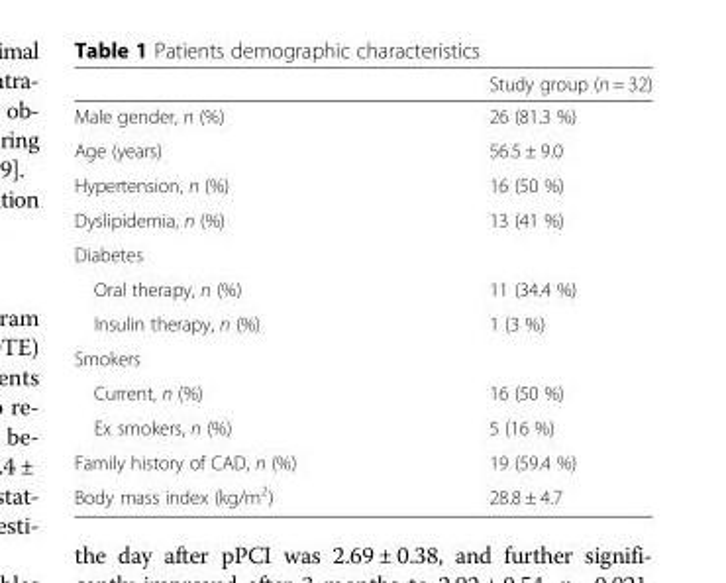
<table><thead><tr><td></td><td>Study group (n = 32)</td></tr></thead><tbody><tr><td>Male gender, n (%)</td><td>26 (81.3 %)</td></tr><tr><td>Age (years)</td><td>56.5 ± 9.0</td></tr><tr><td>Hypertension, n (%)</td><td>16 (50 %)</td></tr><tr><td>Dyslipidemia, n (%)</td><td>13 (41 %)</td></tr><tr><td colspan="2">Diabetes</td></tr><tr><td>Oral therapy, n (%)</td><td>11 (34.4 %)</td></tr><tr><td>Insulin therapy, n (%)</td><td>1 (3 %)</td></tr><tr><td colspan="2">Smokers</td></tr><tr><td>Current, n (%)</td><td>16 (50 %)</td></tr><tr><td>Ex smokers, n (%)</td><td>5 (16 %)</td></tr><tr><td>Family history of CAD, n (%)</td><td>19 (59.4 %)</td></tr><tr><td>Body mass index (kg/m<sup>2</sup>)</td><td>28.8 ± 4.7</td></tr></tbody></table>